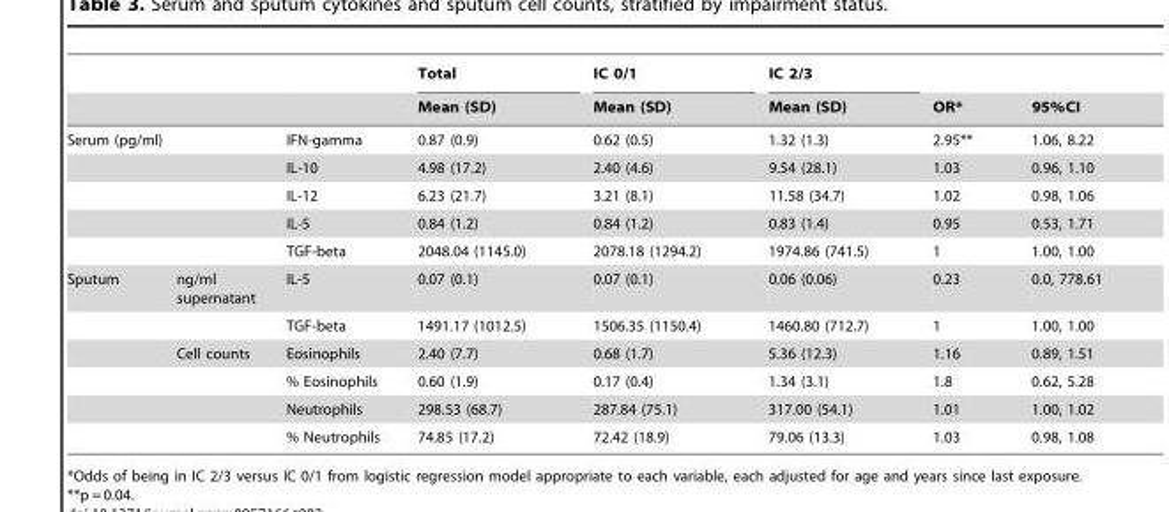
<table><thead><tr><td rowspan="2"></td><td rowspan="2"></td><td rowspan="2"></td><td rowspan="2">Total Mean (SD)</td><td rowspan="2">IC 0/1 Mean (SD)</td><td rowspan="2">IC 2/3 Mean (SD)</td><td rowspan="2">OR*</td><td rowspan="2">95%CI</td></tr><tr></tr></thead><tbody><tr><td rowspan="5" colspan="2">Serum (pg/ml)</td><td>IFN-gamma</td><td>0.87 (0.9)</td><td>0.62 (0.5)</td><td>1.32 (1.3)</td><td>2.95**</td><td>1.06, 8.22</td></tr><tr><td>IL-10</td><td>4.98 (17.2)</td><td>2.40 (4.6)</td><td>9.54 (28.1)</td><td>1.03</td><td>0.96, 1.10</td></tr><tr><td>IL-12</td><td>6.23 (21.7)</td><td>3.21 (8.1)</td><td>11.58 (34.7)</td><td>1.02</td><td>0.98, 1.06</td></tr><tr><td>IL-5</td><td>0.84 (1.2)</td><td>0.84 (1.2)</td><td>0.83 (1.4)</td><td>0.95</td><td>0.53, 1.71</td></tr><tr><td>TGF-beta</td><td>2048.04 (1145.0)</td><td>2078.18 (1294.2)</td><td>1974.86 (741.5)</td><td>1</td><td>1.00, 1.00</td></tr><tr><td rowspan="6">Sputum</td><td>ng/ml supernatant</td><td>IL-5</td><td>0.07 (0.1)</td><td>0.07 (0.1)</td><td>0.06 (0.06)</td><td>0.23</td><td>0.0, 778.61</td></tr><tr><td></td><td>TGF-beta</td><td>1491.17 (1012.5)</td><td>1506.35 (1150.4)</td><td>1460.80 (712.7)</td><td>1</td><td>1.00, 1.00</td></tr><tr><td>Cell counts</td><td>Eosinophils</td><td>2.40 (7.7)</td><td>0.68 (1.7)</td><td>5.36 (12.3)</td><td>1.16</td><td>0.89, 1.51</td></tr><tr><td></td><td>% Eosinophils</td><td>0.60 (1.9)</td><td>0.17 (0.4)</td><td>1.34 (3.1)</td><td>1.8</td><td>0.62, 5.28</td></tr><tr><td></td><td>Neutrophils</td><td>298.53 (68.7)</td><td>287.84 (75.1)</td><td>317.00 (54.1)</td><td>1.01</td><td>1.00, 1.02</td></tr><tr><td></td><td>% Neutrophils</td><td>74.85 (17.2)</td><td>72.42 (18.9)</td><td>79.06 (13.3)</td><td>1.03</td><td>0.98, 1.08</td></tr></tbody></table>